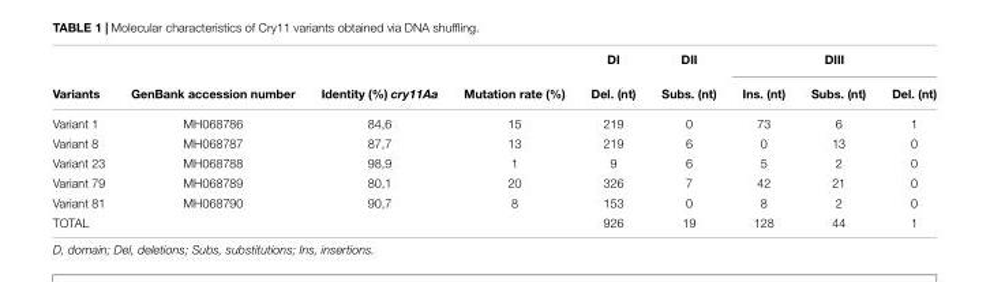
<table><thead><tr><td rowspan="2">Variants</td><td rowspan="2">GenBank accession number</td><td rowspan="2">Identity (%) cry11Aa</td><td rowspan="2">Mutation rate (%)</td><td rowspan="2">DI Del. (nt)</td><td rowspan="2">DII Subs. (nt)</td><td colspan="3">DIII</td></tr><tr><td>Ins. (nt)</td><td>Subs. (nt)</td><td>Del. (nt)</td></tr></thead><tbody><tr><td>Variant 1</td><td>MH068786</td><td>84,6</td><td>15</td><td>219</td><td>0</td><td>73</td><td>6</td><td>1</td></tr><tr><td>Variant 8</td><td>MH068787</td><td>87,7</td><td>13</td><td>219</td><td>6</td><td>0</td><td>13</td><td>0</td></tr><tr><td>Variant 23</td><td>MH068788</td><td>98,9</td><td>1</td><td>9</td><td>6</td><td>5</td><td>2</td><td>0</td></tr><tr><td>Variant 79</td><td>MH068789</td><td>80,1</td><td>20</td><td>326</td><td>7</td><td>42</td><td>21</td><td>0</td></tr><tr><td>Variant 81</td><td>MH068790</td><td>90,7</td><td>8</td><td>153</td><td>0</td><td>8</td><td>2</td><td>0</td></tr><tr><td>TOTAL</td><td></td><td></td><td></td><td>926</td><td>19</td><td>128</td><td>44</td><td>1</td></tr></tbody></table>